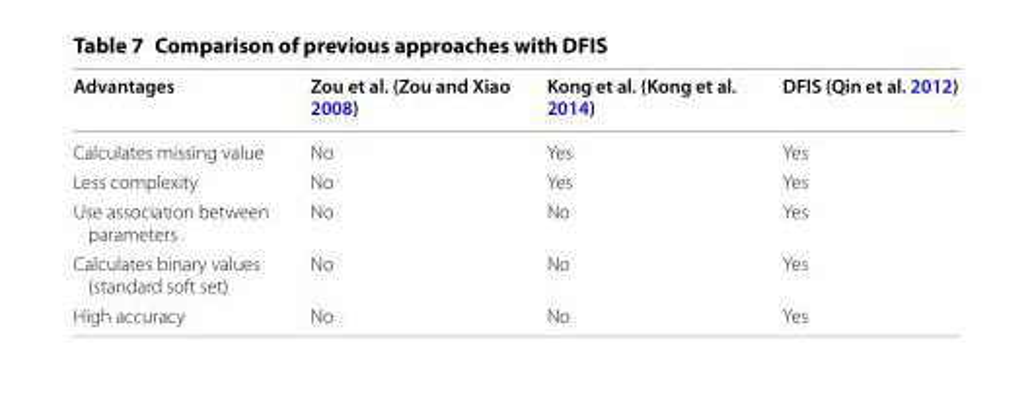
<table><thead><tr><td>Advantages</td><td>Zou et al. (Zou and Xiao 2008)</td><td>Kong et al. (Kong et al. 2014)</td><td>DFIS (Qin et al. 2012)</td></tr></thead><tbody><tr><td>Calculates missing value</td><td>No</td><td>Yes</td><td>Yes</td></tr><tr><td>Less complexity</td><td>No</td><td>Yes</td><td>Yes</td></tr><tr><td>Use association between parameters</td><td>No</td><td>No</td><td>Yes</td></tr><tr><td>Calculates binary values (standard soft set)</td><td>No</td><td>No</td><td>Yes</td></tr><tr><td>High accuracy</td><td>No</td><td>No</td><td>Yes</td></tr></tbody></table>